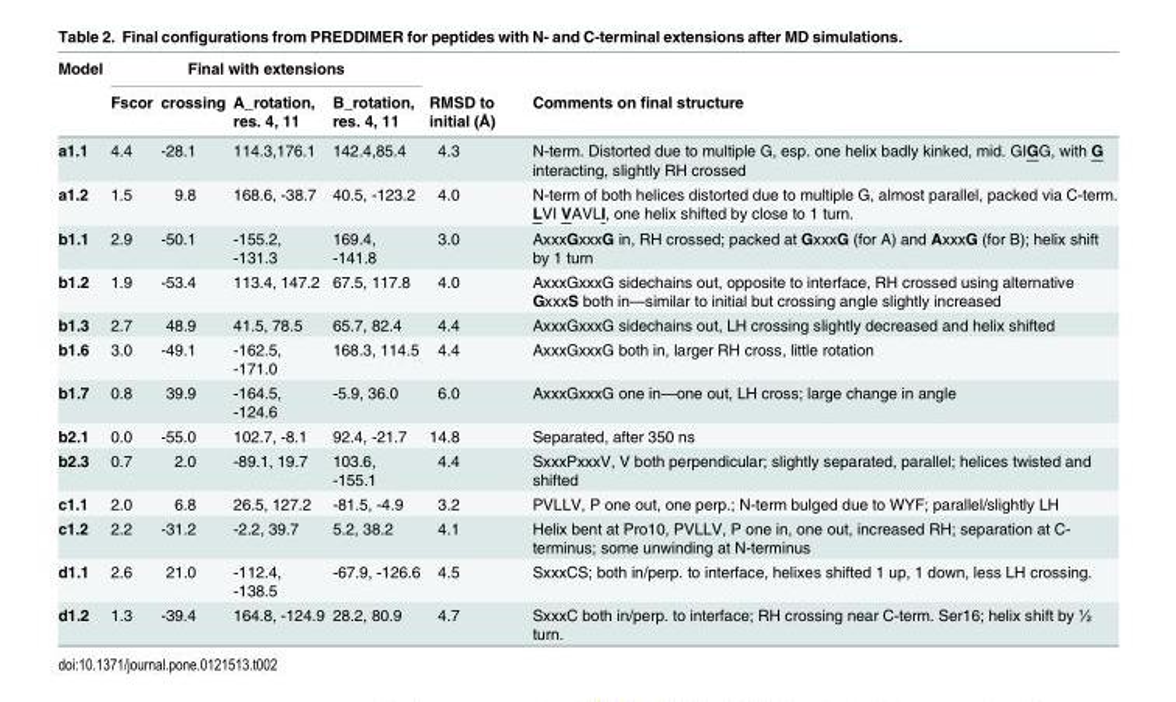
<table><thead><tr><td rowspan="2">Model</td><td colspan="4">Final with extensions</td><td rowspan="2">RMSD to initial (Å)</td><td rowspan="2">Comments on final structure</td></tr><tr><td>Fscor</td><td>crossing</td><td>A_rotation, res. 4, 11</td><td>B_rotation, res. 4, 11</td></tr></thead><tbody><tr><td>a1.1</td><td>4.4</td><td>-28.1</td><td>114.3,176.1</td><td>142.4,85.4</td><td>4.3</td><td>N-term. Distorted due to multiple G, esp. one helix badly kinked, mid. GIGG, with G interacting, slightly RH crossed</td></tr><tr><td>a1.2</td><td>1.5</td><td>9.8</td><td>168.6, -38.7</td><td>40.5, -123.2</td><td>4.0</td><td>N-term of both helices distorted due to multiple G, almost parallel, packed via C-term. LVI VAVLI, one helix shifted by close to 1 turn.</td></tr><tr><td>b1.1</td><td>2.9</td><td>-50.1</td><td>-155.2, -131.3</td><td>169.4, -141.8</td><td>3.0</td><td>AxxxGxxxG in, RH crossed; packed at GxxxG (for A) and AxxxG (for B); helix shift by 1 turn</td></tr><tr><td>b1.2</td><td>1.9</td><td>-53.4</td><td>113.4, 147.2</td><td>67.5, 117.8</td><td>4.0</td><td>AxxxGxxxG sidechains out, opposite to interface, RH crossed using alternative GxxxS both in—similar to initial but crossing angle slightly increased</td></tr><tr><td>b1.3</td><td>2.7</td><td>48.9</td><td>41.5, 78.5</td><td>65.7, 82.4</td><td>4.4</td><td>AxxxGxxxG sidechains out, LH crossing slightly decreased and helix shifted</td></tr><tr><td>b1.6</td><td>3.0</td><td>-49.1</td><td>-162.5, -171.0</td><td>168.3, 114.5</td><td>4.4</td><td>AxxxGxxxG both in, larger RH cross, little rotation</td></tr><tr><td>b1.7</td><td>0.8</td><td>39.9</td><td>-164.5, -124.6</td><td>-5.9, 36.0</td><td>6.0</td><td>AxxxGxxxG one in—one out, LH cross; large change in angle</td></tr><tr><td>b2.1</td><td>0.0</td><td>-55.0</td><td>102.7, -8.1</td><td>92.4, -21.7</td><td>14.8</td><td>Separated, after 350 ns</td></tr><tr><td>b2.3</td><td>0.7</td><td>2.0</td><td>-89.1, 19.7</td><td>103.6, -155.1</td><td>4.4</td><td>SxxxPxxxV, V both perpendicular; slightly separated, parallel; helices twisted and shifted</td></tr><tr><td>c1.1</td><td>2.0</td><td>6.8</td><td>26.5, 127.2</td><td>-81.5, -4.9</td><td>3.2</td><td>PVLLV, P one out, one perp.; N-term bulged due to WYF; parallel/slightly LH</td></tr><tr><td>c1.2</td><td>2.2</td><td>-31.2</td><td>-2.2, 39.7</td><td>5.2, 38.2</td><td>4.1</td><td>Helix bent at Pro10, PVLLV, P one in, one out, increased RH; separation at C- terminus; some unwinding at N-terminus</td></tr><tr><td>d1.1</td><td>2.6</td><td>21.0</td><td>-112.4, -138.5</td><td>-67.9, -126.6</td><td>4.5</td><td>SxxxCS; both in/perp. to interface, helixes shifted 1 up, 1 down, less LH crossing.</td></tr><tr><td>d1.2</td><td>1.3</td><td>-39.4</td><td>164.8, -124.9</td><td>28.2, 80.9</td><td>4.7</td><td>SxxxC both in/perp. to interface; RH crossing near C-term. Ser16; helix shift by ½ turn.</td></tr></tbody></table>